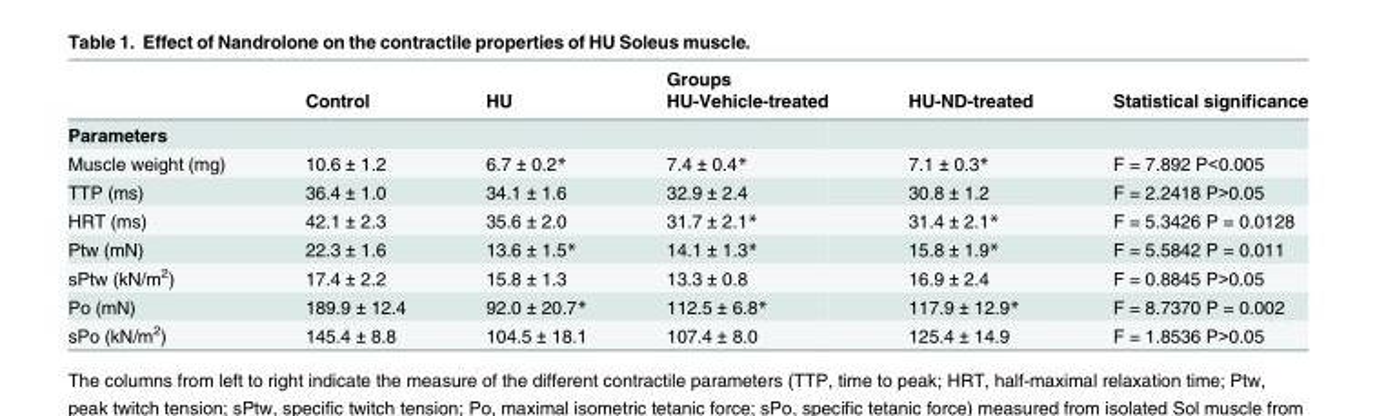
<table><thead><tr><td rowspan="2"></td><td rowspan="2">Control</td><td rowspan="2">HU</td><td rowspan="2">Groups HU-Vehicle-treated</td><td rowspan="2">HU-ND-treated</td><td rowspan="2">Statistical significance</td></tr><tr></tr></thead><tbody><tr><td colspan="6">Parameters</td></tr><tr><td>Muscle weight (mg)</td><td>10.6 ± 1.2</td><td>6.7 ± 0.2*</td><td>7.4 ± 0.4*</td><td>7.1 ± 0.3*</td><td>F = 7.892 P&lt;0.005</td></tr><tr><td>TTP (ms)</td><td>36.4 ± 1.0</td><td>34.1 ± 1.6</td><td>32.9 ± 2.4</td><td>30.8 ± 1.2</td><td>F = 2.2418 P&gt;0.05</td></tr><tr><td>HRT (ms)</td><td>42.1 ± 2.3</td><td>35.6 ± 2.0</td><td>31.7 ± 2.1*</td><td>31.4 ± 2.1*</td><td>F = 5.3426 P = 0.0128</td></tr><tr><td>Ptw (mN)</td><td>22.3 ± 1.6</td><td>13.6 ± 1.5*</td><td>14.1 ± 1.3*</td><td>15.8 ± 1.9*</td><td>F = 5.5842 P = 0.011</td></tr><tr><td>sPtw (kN/m<sup>2</sup>)</td><td>17.4 ± 2.2</td><td>15.8 ± 1.3</td><td>13.3 ± 0.8</td><td>16.9 ± 2.4</td><td>F = 0.8845 P&gt;0.05</td></tr><tr><td>Po (mN)</td><td>189.9 ± 12.4</td><td>92.0 ± 20.7*</td><td>112.5 ± 6.8*</td><td>117.9 ± 12.9*</td><td>F = 8.7370 P = 0.002</td></tr><tr><td>sPo (kN/m<sup>2</sup>)</td><td>145.4 ± 8.8</td><td>104.5 ± 18.1</td><td>107.4 ± 8.0</td><td>125.4 ± 14.9</td><td>F = 1.8536 P&gt;0.05</td></tr></tbody></table>